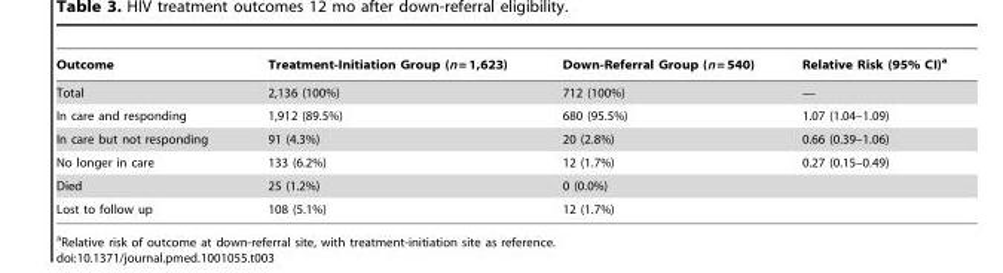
<table><thead><tr><td>Outcome</td><td>Treatment-Initiation Group (n = 1,623)</td><td>Down-Referral Group (n = 540)</td><td>Relative Risk (95% CI)<sup>a</sup></td></tr></thead><tbody><tr><td>Total</td><td>2,136 (100%)</td><td>712 (100%)</td><td>—</td></tr><tr><td>In care and responding</td><td>1,912 (89.5%)</td><td>680 (95.5%)</td><td>1.07 (1.04–1.09)</td></tr><tr><td>In care but not responding</td><td>91 (4.3%)</td><td>20 (2.8%)</td><td>0.66 (0.39–1.06)</td></tr><tr><td>No longer in care</td><td>133 (6.2%)</td><td>12 (1.7%)</td><td>0.27 (0.15–0.49)</td></tr><tr><td>Died</td><td>25 (1.2%)</td><td>0 (0.0%)</td><td></td></tr><tr><td>Lost to follow up</td><td>108 (5.1%)</td><td>12 (1.7%)</td><td></td></tr></tbody></table>